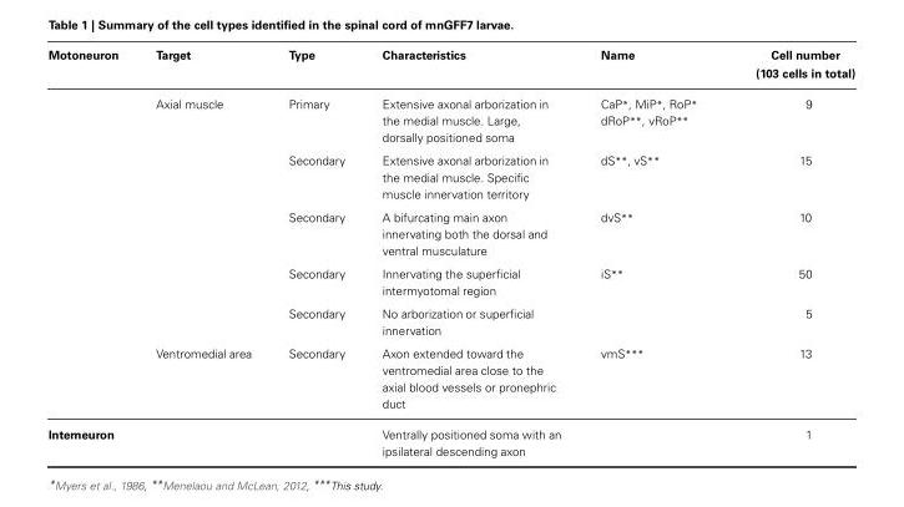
<table><thead><tr><td>Motoneuron</td><td>Target</td><td>Type</td><td>Characteristics</td><td>Name</td><td>Cell number (103 cells in total)</td></tr></thead><tbody><tr><td></td><td>Axial muscle</td><td>Primary</td><td>Extensive axonal arborization in the medial muscle. Large, dorsally positioned soma</td><td>CaP*, MiP*, RoP* dRoP**, vRoP**</td><td>9</td></tr><tr><td></td><td></td><td>Secondary</td><td>Extensive axonal arborization in the medial muscle. Specific muscle innervation territory</td><td>dS**, vS**</td><td>15</td></tr><tr><td></td><td></td><td>Secondary</td><td>A bifurcating main axon innervating both the dorsal and ventral musculature</td><td>dvS**</td><td>10</td></tr><tr><td></td><td></td><td>Secondary</td><td>Innervating the superficial intermyotomal region</td><td>iS**</td><td>50</td></tr><tr><td></td><td></td><td>Secondary</td><td>No arborization or superficial innervation</td><td></td><td>5</td></tr><tr><td></td><td>Ventromedial area</td><td>Secondary</td><td>Axon extended toward the ventromedial area close to the axial blood vessels or pronephric duct</td><td>vmS***</td><td>13</td></tr><tr><td>Interneuron</td><td></td><td></td><td>Ventrally positioned soma with an ipsilateral descending axon</td><td></td><td>1</td></tr></tbody></table>